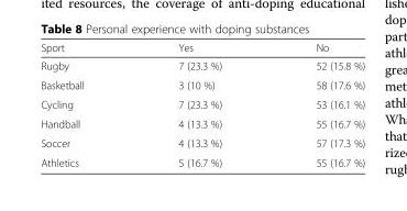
<table><thead><tr><td>Sport</td><td>Yes</td><td>No</td></tr></thead><tbody><tr><td>Rugby</td><td>7 (23.3 %)</td><td>52 (15.8 %)</td></tr><tr><td>Basketball</td><td>3 (10 %)</td><td>58 (17.6 %)</td></tr><tr><td>Cycling</td><td>7 (23.3 %)</td><td>53 (16.1 %)</td></tr><tr><td>Handball</td><td>4 (13.3 %)</td><td>55 (16.7 %)</td></tr><tr><td>Soccer</td><td>4 (13.3 %)</td><td>57 (17.3 %)</td></tr><tr><td>Athletics</td><td>5 (16.7 %)</td><td>55 (16.7 %)</td></tr></tbody></table>